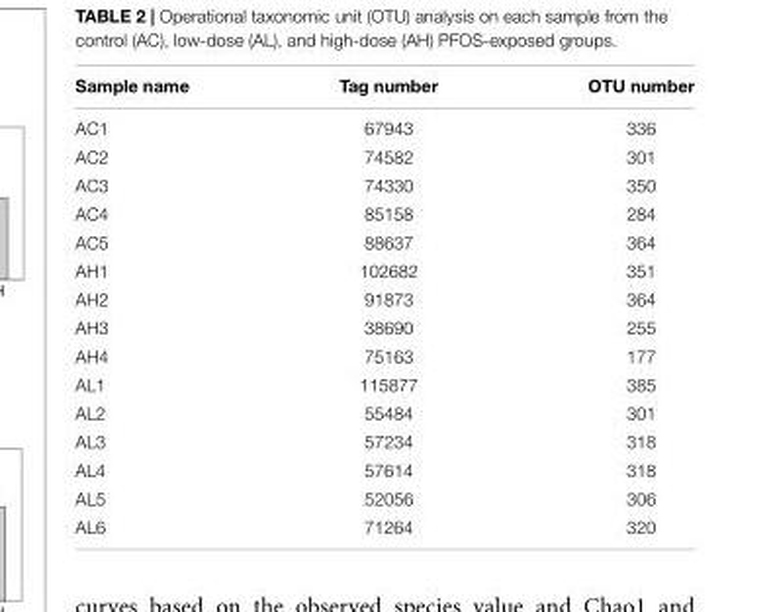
<table><thead><tr><td>Sample name</td><td>Tag number</td><td>OTU number</td></tr></thead><tbody><tr><td>AC1</td><td>67943</td><td>336</td></tr><tr><td>AC2</td><td>74582</td><td>301</td></tr><tr><td>AC3</td><td>74330</td><td>350</td></tr><tr><td>AC4</td><td>85158</td><td>284</td></tr><tr><td>AC5</td><td>88637</td><td>364</td></tr><tr><td>AH1</td><td>102682</td><td>351</td></tr><tr><td>AH2</td><td>91873</td><td>364</td></tr><tr><td>AH3</td><td>38690</td><td>255</td></tr><tr><td>AH4</td><td>75163</td><td>177</td></tr><tr><td>AL1</td><td>115877</td><td>385</td></tr><tr><td>AL2</td><td>55484</td><td>301</td></tr><tr><td>AL3</td><td>57234</td><td>318</td></tr><tr><td>AL4</td><td>57614</td><td>318</td></tr><tr><td>AL5</td><td>52056</td><td>306</td></tr><tr><td>AL6</td><td>71264</td><td>320</td></tr></tbody></table>